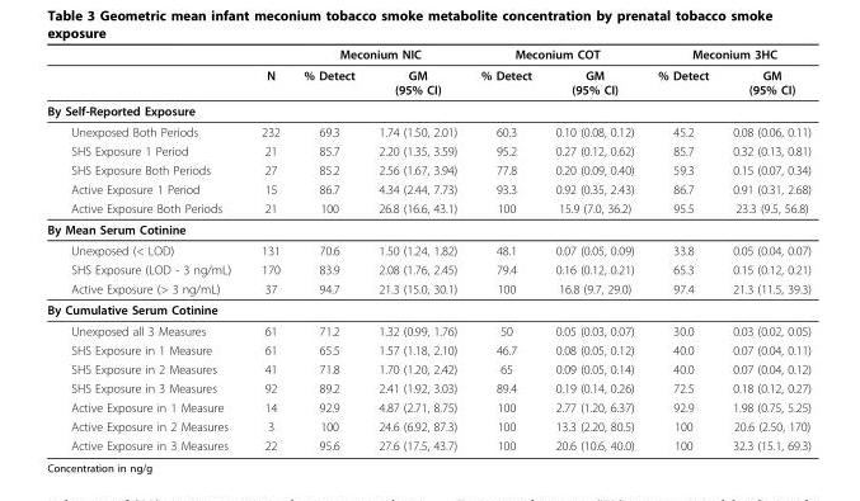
<table><thead><tr><td rowspan="2"></td><td rowspan="2">N</td><td colspan="2">Meconium NIC</td><td colspan="2">Meconium COT</td><td colspan="2">Meconium 3HC</td></tr><tr><td>% Detect</td><td>GM (95% CI)</td><td>% Detect</td><td>GM (95% CI)</td><td>% Detect</td><td>GM (95% CI)</td></tr></thead><tbody><tr><td colspan="8">By Self-Reported Exposure</td></tr><tr><td>Unexposed Both Periods</td><td>232</td><td>69.3</td><td>1.74 (1.50, 2.01)</td><td>60.3</td><td>0.10 (0.08, 0.12)</td><td>45.2</td><td>0.08 (0.06, 0.11)</td></tr><tr><td>SHS Exposure 1 Period</td><td>21</td><td>85.7</td><td>2.20 (1.35, 3.59)</td><td>95.2</td><td>0.27 (0.12, 0.62)</td><td>85.7</td><td>0.32 (0.13, 0.81)</td></tr><tr><td>SHS Exposure Both Periods</td><td>27</td><td>85.2</td><td>2.56 (1.67, 3.94)</td><td>77.8</td><td>0.20 (0.09, 0.40)</td><td>59.3</td><td>0.15 (0.07, 0.34)</td></tr><tr><td>Active Exposure 1 Period</td><td>15</td><td>86.7</td><td>4.34 (2.44, 7.73)</td><td>93.3</td><td>0.92 (0.35, 2.43)</td><td>86.7</td><td>0.91 (0.31, 2.68)</td></tr><tr><td>Active Exposure Both Periods</td><td>21</td><td>100</td><td>26.8 (16.6, 43.1)</td><td>100</td><td>15.9 (7.0, 36.2)</td><td>95.5</td><td>23.3 (9.5, 56.8)</td></tr><tr><td colspan="8">By Mean Serum Cotinine</td></tr><tr><td>Unexposed (&lt; LOD)</td><td>131</td><td>70.6</td><td>1.50 (1.24, 1.82)</td><td>48.1</td><td>0.07 (0.05, 0.09)</td><td>33.8</td><td>0.05 (0.04, 0.07)</td></tr><tr><td>SHS Exposure (LOD - 3 ng/mL)</td><td>170</td><td>83.9</td><td>2.08 (1.76, 2.45)</td><td>79.4</td><td>0.16 (0.12, 0.21)</td><td>65.3</td><td>0.15 (0.12, 0.21)</td></tr><tr><td>Active Exposure (&gt; 3 ng/mL)</td><td>37</td><td>94.7</td><td>21.3 (15.0, 30.1)</td><td>100</td><td>16.8 (9.7, 29.0)</td><td>97.4</td><td>21.3 (11.5, 39.3)</td></tr><tr><td colspan="8">By Cumulative Serum Cotinine</td></tr><tr><td>Unexposed all 3 Measures</td><td>61</td><td>71.2</td><td>1.32 (0.99, 1.76)</td><td>50</td><td>0.05 (0.03, 0.07)</td><td>30.0</td><td>0.03 (0.02, 0.05)</td></tr><tr><td>SHS Exposure in 1 Measure</td><td>61</td><td>65.5</td><td>1.57 (1.18, 2.10)</td><td>46.7</td><td>0.08 (0.05, 0.12)</td><td>40.0</td><td>0.07 (0.04, 0.11)</td></tr><tr><td>SHS Exposure in 2 Measures</td><td>41</td><td>71.8</td><td>1.70 (1.20, 2.42)</td><td>65</td><td>0.09 (0.05, 0.14)</td><td>40.0</td><td>0.07 (0.04, 0.12)</td></tr><tr><td>SHS Exposure in 3 Measures</td><td>92</td><td>89.2</td><td>2.41 (1.92, 3.03)</td><td>89.4</td><td>0.19 (0.14, 0.26)</td><td>72.5</td><td>0.18 (0.12, 0.27)</td></tr><tr><td>Active Exposure in 1 Measure</td><td>14</td><td>92.9</td><td>4.87 (2.71, 8.75)</td><td>100</td><td>2.77 (1.20, 6.37)</td><td>92.9</td><td>1.98 (0.75, 5.25)</td></tr><tr><td>Active Exposure in 2 Measures</td><td>3</td><td>100</td><td>24.6 (6.92, 87.3)</td><td>100</td><td>13.3 (2.20, 80.5)</td><td>100</td><td>20.6 (2.50, 170)</td></tr><tr><td>Active Exposure in 3 Measures</td><td>22</td><td>95.6</td><td>27.6 (17.5, 43.7)</td><td>100</td><td>20.6 (10.6, 40.0)</td><td>100</td><td>32.3 (15.1, 69.3)</td></tr></tbody></table>